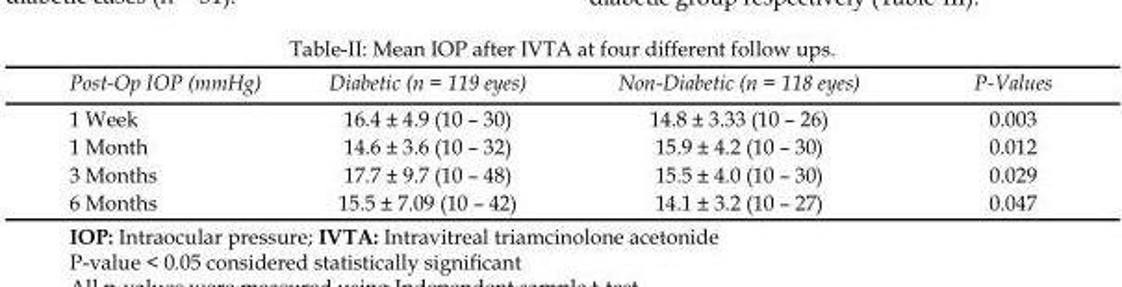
<table><thead><tr><td>Post-Op IOP (mmHg)</td><td>Diabetic (n = 119 eyes)</td><td>Non-Diabetic (n = 118 eyes)</td><td>P-Values</td></tr></thead><tbody><tr><td>1 Week</td><td>16.4 ± 4.9 (10 – 30)</td><td>14.8 ± 3.33 (10 – 26)</td><td>0.003</td></tr><tr><td>1 Month</td><td>14.6 ± 3.6 (10 – 32)</td><td>15.9 ± 4.2 (10 – 30)</td><td>0.012</td></tr><tr><td>3 Months</td><td>17.7 ± 9.7 (10 – 48)</td><td>15.5 ± 4.0 (10 – 30)</td><td>0.029</td></tr><tr><td>6 Months</td><td>15.5 ± 7.09 (10 – 42)</td><td>14.1 ± 3.2 (10 – 27)</td><td>0.047</td></tr></tbody></table>